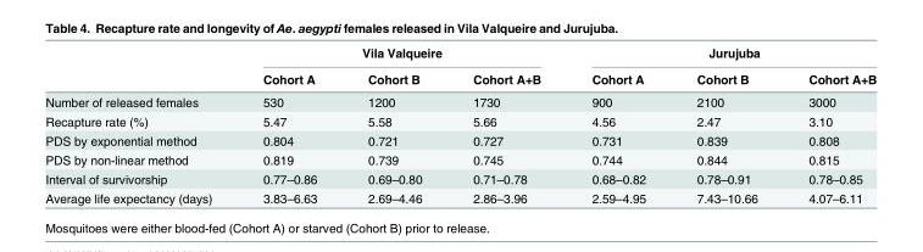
<table><thead><tr><td rowspan="2"></td><td colspan="3">Vila Valqueire</td><td colspan="3">Jurujuba</td></tr><tr><td>Cohort A</td><td>Cohort B</td><td>Cohort A+B</td><td>Cohort A</td><td>Cohort B</td><td>Cohort A+B</td></tr></thead><tbody><tr><td>Number of released females</td><td>530</td><td>1200</td><td>1730</td><td>900</td><td>2100</td><td>3000</td></tr><tr><td>Recapture rate (%)</td><td>5.47</td><td>5.58</td><td>5.66</td><td>4.56</td><td>2.47</td><td>3.10</td></tr><tr><td>PDS by exponential method</td><td>0.804</td><td>0.721</td><td>0.727</td><td>0.731</td><td>0.839</td><td>0.808</td></tr><tr><td>PDS by non-linear method</td><td>0.819</td><td>0.739</td><td>0.745</td><td>0.744</td><td>0.844</td><td>0.815</td></tr><tr><td>Interval of survivorship</td><td>0.77–0.86</td><td>0.69–0.80</td><td>0.71–0.78</td><td>0.68–0.82</td><td>0.78–0.91</td><td>0.78–0.85</td></tr><tr><td>Average life expectancy (days)</td><td>3.83–6.63</td><td>2.69–4.46</td><td>2.86–3.96</td><td>2.59–4.95</td><td>7.43–10.66</td><td>4.07–6.11</td></tr></tbody></table>